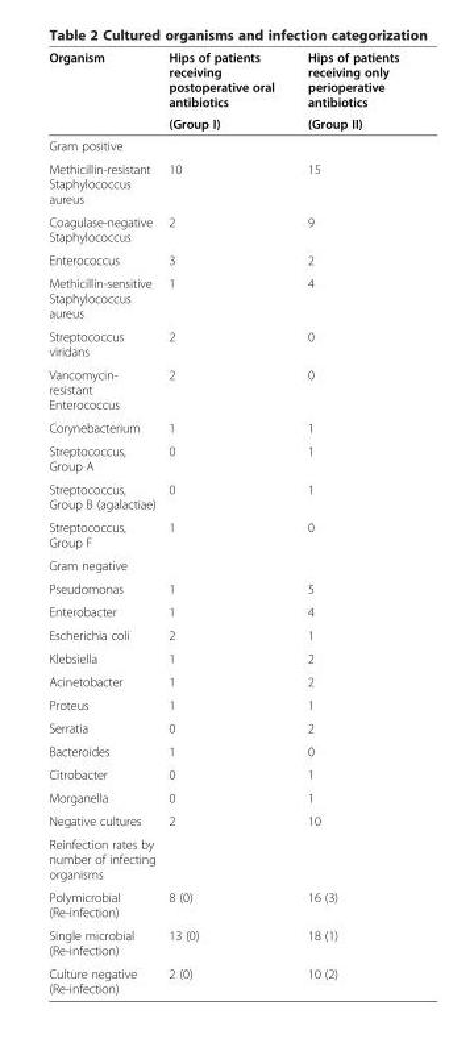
<table><thead><tr><td rowspan="2">Organism</td><td rowspan="2">Hips of patients receiving postoperative oral antibiotics (Group I)</td><td rowspan="2">Hips of patients receiving only perioperative antibiotics (Group II)</td></tr><tr></tr></thead><tbody><tr><td colspan="3">Gram positive</td></tr><tr><td>Methicillin-resistant Staphylococcus aureus</td><td>10</td><td>15</td></tr><tr><td>Coagulase-negative Staphylococcus</td><td>2</td><td>9</td></tr><tr><td>Enterococcus</td><td>3</td><td>2</td></tr><tr><td>Methicillin-sensitive Staphylococcus aureus</td><td>1</td><td>4</td></tr><tr><td>Streptococcus viridans</td><td>2</td><td>0</td></tr><tr><td>Vancomycin- resistant Enterococcus</td><td>2</td><td>0</td></tr><tr><td>Corynebacterium</td><td>1</td><td>1</td></tr><tr><td>Streptococcus, Group A</td><td>0</td><td>1</td></tr><tr><td>Streptococcus, Group B (agalactiae)</td><td>0</td><td>1</td></tr><tr><td>Streptococcus, Group F</td><td>1</td><td>0</td></tr><tr><td colspan="3">Gram negative</td></tr><tr><td>Pseudomonas</td><td>1</td><td>5</td></tr><tr><td>Enterobacter</td><td>1</td><td>4</td></tr><tr><td>Escherichia coli</td><td>2</td><td>1</td></tr><tr><td>Klebsiella</td><td>1</td><td>2</td></tr><tr><td>Acinetobacter</td><td>1</td><td>2</td></tr><tr><td>Proteus</td><td>1</td><td>1</td></tr><tr><td>Serratia</td><td>0</td><td>2</td></tr><tr><td>Bacteroides</td><td>1</td><td>0</td></tr><tr><td>Citrobacter</td><td>0</td><td>1</td></tr><tr><td>Morganella</td><td>0</td><td>1</td></tr><tr><td>Negative cultures</td><td>2</td><td>10</td></tr><tr><td colspan="3">Reinfection rates by number of infecting organisms</td></tr><tr><td>Polymicrobial (Re-infection)</td><td>8 (0)</td><td>16 (3)</td></tr><tr><td>Single microbial (Re-infection)</td><td>13 (0)</td><td>18 (1)</td></tr><tr><td>Culture negative (Re-infection)</td><td>2 (0)</td><td>10 (2)</td></tr></tbody></table>